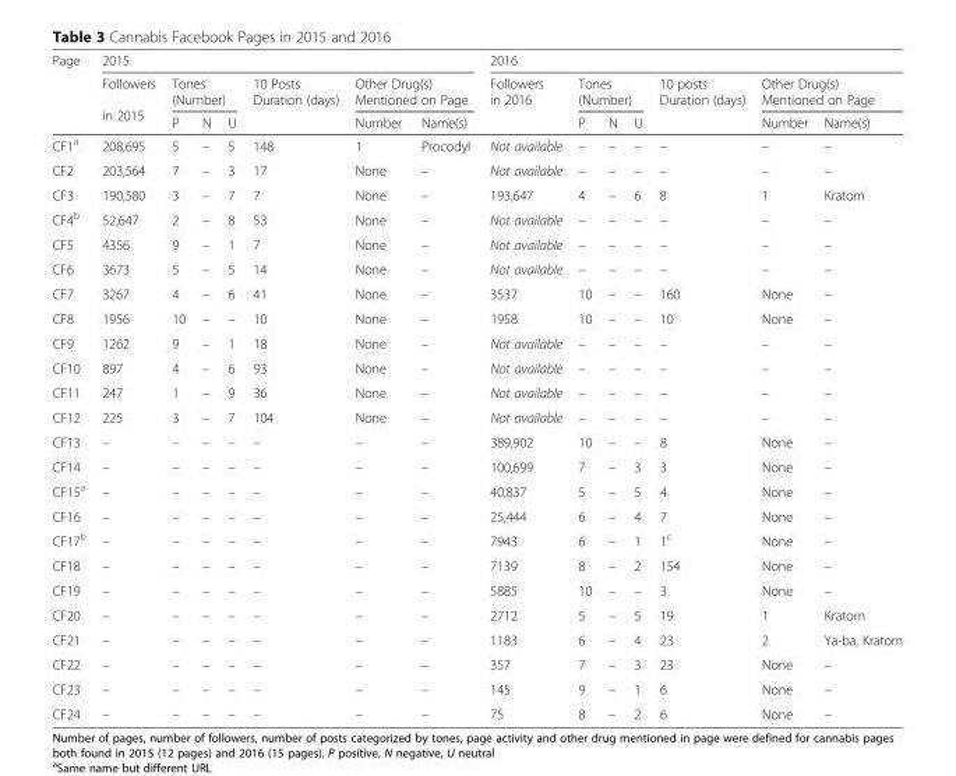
<table><thead><tr><td rowspan="3">Page</td><td colspan="7">2015</td><td colspan="7">2016</td></tr><tr><td rowspan="2">Followers in 2015</td><td colspan="3">Tones (Number)</td><td rowspan="2">10 Posts Duration (days)</td><td colspan="2">Other Drug(s) Mentioned on Page</td><td rowspan="2">Followers in 2016</td><td colspan="3">Tones (Number)</td><td rowspan="2">10 posts Duration (days)</td><td colspan="2">Other Drug(s) Mentioned on Page</td></tr><tr><td>P</td><td>N</td><td>U</td><td>Number</td><td>Name(s)</td><td>P</td><td>N</td><td>U</td><td>Number</td><td>Name(s)</td></tr></thead><tbody><tr><td>CF1<sup>a</sup></td><td>208,695</td><td>5</td><td>–</td><td>5</td><td>148</td><td>1</td><td>Procodyl</td><td>Not available</td><td>–</td><td>–</td><td>–</td><td>–</td><td>–</td><td>–</td></tr><tr><td>CF2</td><td>203,564</td><td>7</td><td>–</td><td>3</td><td>17</td><td>None</td><td>–</td><td>Not available</td><td>–</td><td>–</td><td>–</td><td>–</td><td>–</td><td>–</td></tr><tr><td>CF3</td><td>190,580</td><td>3</td><td>–</td><td>7</td><td>7</td><td>None</td><td>–</td><td>193,647</td><td>4</td><td>–</td><td>6</td><td>8</td><td>1</td><td>Kratom</td></tr><tr><td>CF4<sup>b</sup></td><td>52,647</td><td>2</td><td>–</td><td>8</td><td>53</td><td>None</td><td>–</td><td>Not available</td><td>–</td><td>–</td><td>–</td><td>–</td><td>–</td><td>–</td></tr><tr><td>CF5</td><td>4356</td><td>9</td><td>–</td><td>1</td><td>7</td><td>None</td><td>–</td><td>Not available</td><td>–</td><td>–</td><td>–</td><td>–</td><td>–</td><td>–</td></tr><tr><td>CF6</td><td>3673</td><td>5</td><td>–</td><td>5</td><td>14</td><td>None</td><td>–</td><td>Not available</td><td>–</td><td>–</td><td>–</td><td>–</td><td>–</td><td>–</td></tr><tr><td>CF7</td><td>3267</td><td>4</td><td>–</td><td>6</td><td>41</td><td>None</td><td>–</td><td>3537</td><td>10</td><td>–</td><td>–</td><td>160</td><td>None</td><td>–</td></tr><tr><td>CF8</td><td>1956</td><td>10</td><td>–</td><td>–</td><td>10</td><td>None</td><td>–</td><td>1958</td><td>10</td><td>–</td><td>–</td><td>10</td><td>None</td><td>–</td></tr><tr><td>CF9</td><td>1262</td><td>9</td><td>–</td><td>1</td><td>18</td><td>None</td><td>–</td><td>Not available</td><td>–</td><td>–</td><td>–</td><td>–</td><td>–</td><td>–</td></tr><tr><td>CF10</td><td>897</td><td>4</td><td>–</td><td>6</td><td>93</td><td>None</td><td>–</td><td>Not available</td><td>–</td><td>–</td><td>–</td><td>–</td><td>–</td><td>–</td></tr><tr><td>CF11</td><td>247</td><td>1</td><td>–</td><td>9</td><td>36</td><td>None</td><td>–</td><td>Not available</td><td>–</td><td>–</td><td>–</td><td>–</td><td>–</td><td>–</td></tr><tr><td>CF12</td><td>225</td><td>3</td><td>–</td><td>7</td><td>104</td><td>None</td><td>–</td><td>Not available</td><td>–</td><td>–</td><td>–</td><td>–</td><td>–</td><td>–</td></tr><tr><td>CF13</td><td>–</td><td>–</td><td>–</td><td>–</td><td>–</td><td>–</td><td>–</td><td>389,902</td><td>10</td><td>–</td><td>–</td><td>8</td><td>None</td><td>–</td></tr><tr><td>CF14</td><td>–</td><td>–</td><td>–</td><td>–</td><td>–</td><td>–</td><td>–</td><td>100,699</td><td>7</td><td>–</td><td>3</td><td>3</td><td>None</td><td>–</td></tr><tr><td>CF15<sup>a</sup></td><td>–</td><td>–</td><td>–</td><td>–</td><td>–</td><td>–</td><td>–</td><td>40,837</td><td>5</td><td>–</td><td>5</td><td>4</td><td>None</td><td>–</td></tr><tr><td>CF16</td><td>–</td><td>–</td><td>–</td><td>–</td><td>–</td><td>–</td><td>–</td><td>25,444</td><td>6</td><td>–</td><td>4</td><td>7</td><td>None</td><td>–</td></tr><tr><td>CF17<sup>b</sup></td><td>–</td><td>–</td><td>–</td><td>–</td><td>–</td><td>–</td><td>–</td><td>7943</td><td>6</td><td>–</td><td>1</td><td>1<sup>c</sup></td><td>None</td><td>–</td></tr><tr><td>CF18</td><td>–</td><td>–</td><td>–</td><td>–</td><td>–</td><td>–</td><td>–</td><td>7139</td><td>8</td><td>–</td><td>2</td><td>154</td><td>None</td><td>–</td></tr><tr><td>CF19</td><td>–</td><td>–</td><td>–</td><td>–</td><td>–</td><td>–</td><td>–</td><td>5885</td><td>10</td><td>–</td><td>–</td><td>3</td><td>None</td><td>–</td></tr><tr><td>CF20</td><td>–</td><td>–</td><td>–</td><td>–</td><td>–</td><td>–</td><td>–</td><td>2712</td><td>5</td><td>–</td><td>5</td><td>19</td><td>1</td><td>Kratom</td></tr><tr><td>CF21</td><td>–</td><td>–</td><td>–</td><td>–</td><td>–</td><td>–</td><td>–</td><td>1183</td><td>6</td><td>–</td><td>4</td><td>23</td><td>2</td><td>Ya-ba, Kratom</td></tr><tr><td>CF22</td><td>–</td><td>–</td><td>–</td><td>–</td><td>–</td><td>–</td><td>–</td><td>357</td><td>7</td><td>–</td><td>3</td><td>23</td><td>None</td><td>–</td></tr><tr><td>CF23</td><td>–</td><td>–</td><td>–</td><td>–</td><td>–</td><td>–</td><td>–</td><td>145</td><td>9</td><td>–</td><td>1</td><td>6</td><td>None</td><td>–</td></tr><tr><td>CF24</td><td>–</td><td>–</td><td>–</td><td>–</td><td>–</td><td>–</td><td>–</td><td>75</td><td>8</td><td>–</td><td>2</td><td>6</td><td>None</td><td>–</td></tr></tbody></table>